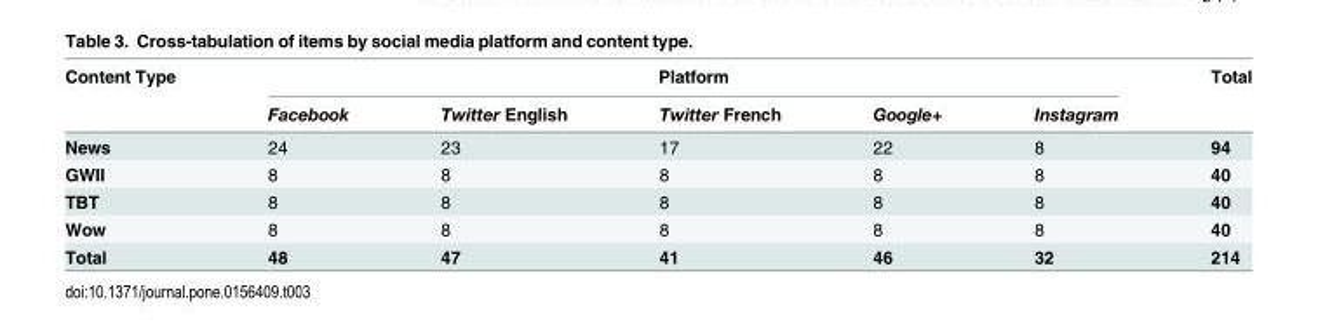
<table><thead><tr><td rowspan="2">Content Type</td><td colspan="5">Platform</td><td rowspan="2">Total</td></tr><tr><td>Facebook</td><td>Twitter English</td><td>Twitter French</td><td>Google+</td><td>Instagram</td></tr></thead><tbody><tr><td>News</td><td>24</td><td>23</td><td>17</td><td>22</td><td>8</td><td>94</td></tr><tr><td>GWII</td><td>8</td><td>8</td><td>8</td><td>8</td><td>8</td><td>40</td></tr><tr><td>TBT</td><td>8</td><td>8</td><td>8</td><td>8</td><td>8</td><td>40</td></tr><tr><td>Wow</td><td>8</td><td>8</td><td>8</td><td>8</td><td>8</td><td>40</td></tr><tr><td>Total</td><td>48</td><td>47</td><td>41</td><td>46</td><td>32</td><td>214</td></tr></tbody></table>